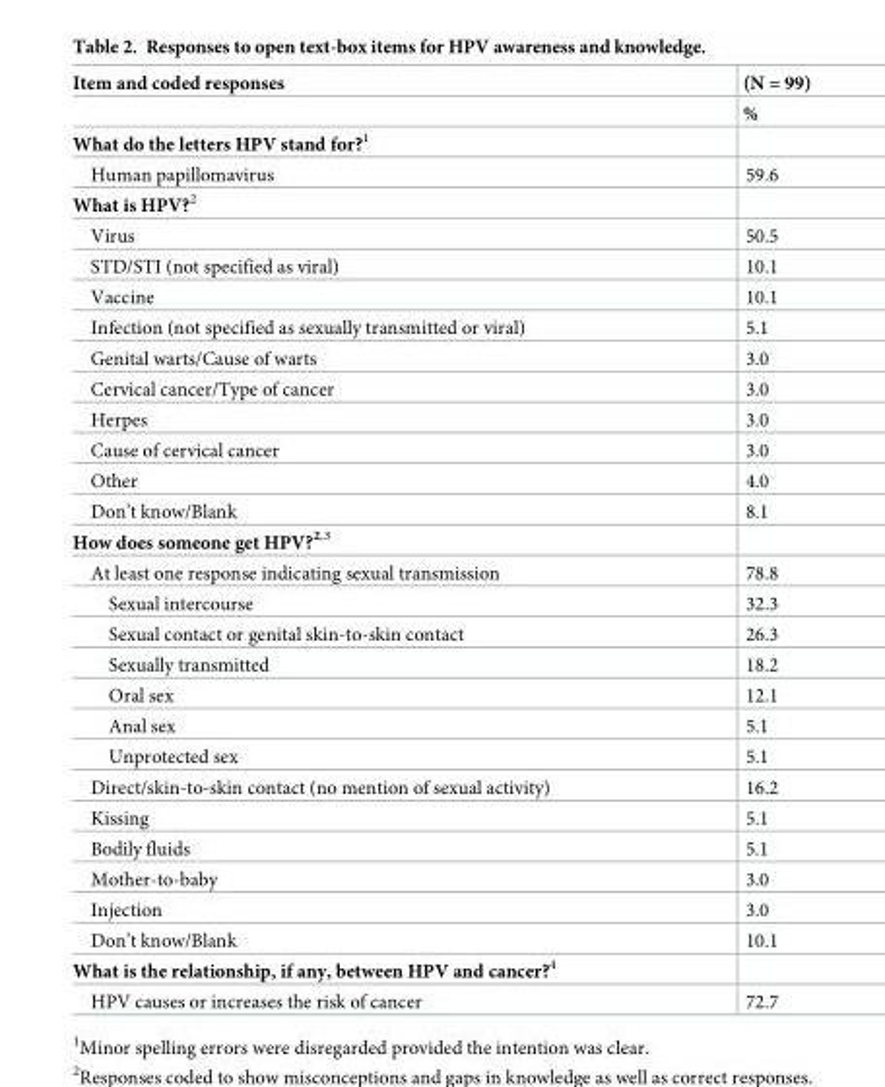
<table><thead><tr><td rowspan="2">Item and coded responses</td><td rowspan="2">(N = 99) %</td></tr><tr></tr></thead><tbody><tr><td colspan="2">What do the letters HPV stand for?<sup>1</sup></td></tr><tr><td>Human papillomavirus</td><td>59.6</td></tr><tr><td colspan="2">What is HPV?<sup>2</sup></td></tr><tr><td>Virus</td><td>50.5</td></tr><tr><td>STD/STI (not specified as viral)</td><td>10.1</td></tr><tr><td>Vaccine</td><td>10.1</td></tr><tr><td>Infection (not specified as sexually transmitted or viral)</td><td>5.1</td></tr><tr><td>Genital warts/Cause of warts</td><td>3.0</td></tr><tr><td>Cervical cancer/Type of cancer</td><td>3.0</td></tr><tr><td>Herpes</td><td>3.0</td></tr><tr><td>Cause of cervical cancer</td><td>3.0</td></tr><tr><td>Other</td><td>4.0</td></tr><tr><td>Don’t know/Blank</td><td>8.1</td></tr><tr><td colspan="2">How does someone get HPV?<sup>2,3</sup></td></tr><tr><td>At least one response indicating sexual transmission</td><td>78.8</td></tr><tr><td>Sexual intercourse</td><td>32.3</td></tr><tr><td>Sexual contact or genital skin-to-skin contact</td><td>26.3</td></tr><tr><td>Sexually transmitted</td><td>18.2</td></tr><tr><td>Oral sex</td><td>12.1</td></tr><tr><td>Anal sex</td><td>5.1</td></tr><tr><td>Unprotected sex</td><td>5.1</td></tr><tr><td>Direct/skin-to-skin contact (no mention of sexual activity)</td><td>16.2</td></tr><tr><td>Kissing</td><td>5.1</td></tr><tr><td>Bodily fluids</td><td>5.1</td></tr><tr><td>Mother-to-baby</td><td>3.0</td></tr><tr><td>Injection</td><td>3.0</td></tr><tr><td>Don’t know/Blank</td><td>10.1</td></tr><tr><td colspan="2">What is the relationship, if any, between HPV and cancer?<sup>4</sup></td></tr><tr><td>HPV causes or increases the risk of cancer</td><td>72.7</td></tr></tbody></table>